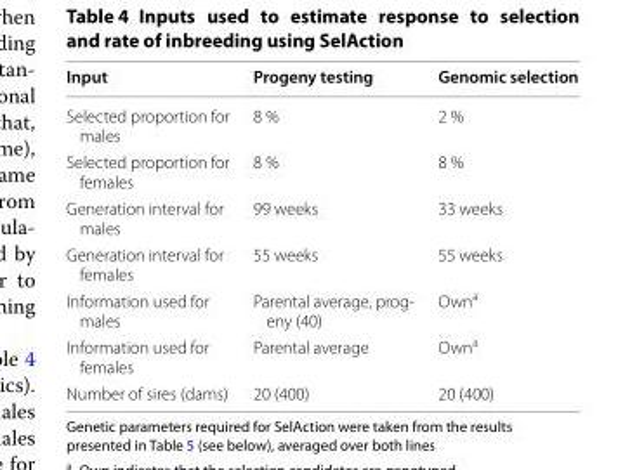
<table><thead><tr><td>Input</td><td>Progeny testing</td><td>Genomic selection</td></tr></thead><tbody><tr><td>Selected proportion for males</td><td>8 %</td><td>2 %</td></tr><tr><td>Selected proportion for females</td><td>8 %</td><td>8 %</td></tr><tr><td>Generation interval for males</td><td>99 weeks</td><td>33 weeks</td></tr><tr><td>Generation interval for females</td><td>55 weeks</td><td>55 weeks</td></tr><tr><td>Information used for males</td><td>Parental average, prog- eny (40)</td><td>Own<sup>a</sup></td></tr><tr><td>Information used for females</td><td>Parental average</td><td>Own<sup>a</sup></td></tr><tr><td>Number of sires (dams)</td><td>20 (400)</td><td>20 (400)</td></tr></tbody></table>